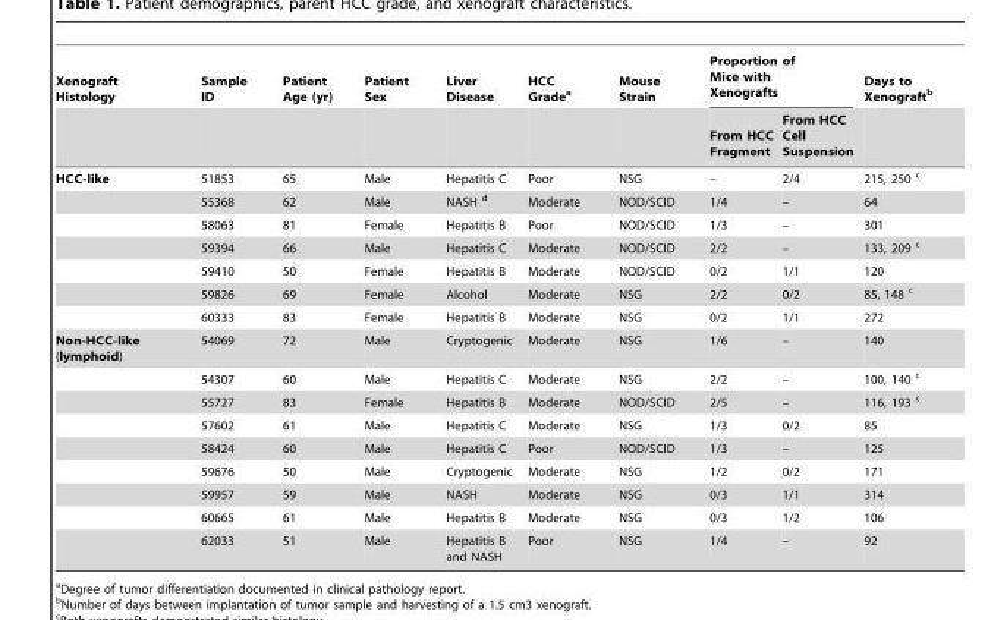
<table><thead><tr><td rowspan="2">Xenograft Histology</td><td rowspan="2">Sample ID</td><td rowspan="2">Patient Age (yr)</td><td rowspan="2">Patient Sex</td><td rowspan="2">Liver Disease</td><td rowspan="2">HCC Grade<sup>a</sup></td><td rowspan="2">Mouse Strain</td><td colspan="2">Proportion of Mice with Xenografts</td><td rowspan="2">Days to Xenograft<sup>b</sup></td></tr><tr><td>From HCC Fragment</td><td>From HCC Cell Suspension</td></tr></thead><tbody><tr><td rowspan="7">HCC-like</td><td>51853</td><td>65</td><td>Male</td><td>Hepatitis C</td><td>Poor</td><td>NSG</td><td>–</td><td>2/4</td><td>215, 250 c</td></tr><tr><td>55368</td><td>62</td><td>Male</td><td>NASH d</td><td>Moderate</td><td>NOD/SCID</td><td>1/4</td><td>–</td><td>64</td></tr><tr><td>58063</td><td>81</td><td>Female</td><td>Hepatitis B</td><td>Poor</td><td>NOD/SCID</td><td>1/3</td><td>–</td><td>301</td></tr><tr><td>59394</td><td>66</td><td>Male</td><td>Hepatitis C</td><td>Moderate</td><td>NOD/SCID</td><td>2/2</td><td>–</td><td>133, 209 c</td></tr><tr><td>59410</td><td>50</td><td>Female</td><td>Hepatitis B</td><td>Moderate</td><td>NOD/SCID</td><td>0/2</td><td>1/1</td><td>120</td></tr><tr><td>59826</td><td>69</td><td>Female</td><td>Alcohol</td><td>Moderate</td><td>NSG</td><td>2/2</td><td>0/2</td><td>85, 148 c</td></tr><tr><td>60333</td><td>83</td><td>Female</td><td>Hepatitis B</td><td>Moderate</td><td>NSG</td><td>0/2</td><td>1/1</td><td>272</td></tr><tr><td rowspan="9">Non-HCC-like (lymphoid)</td><td>54069</td><td>72</td><td>Male</td><td>Cryptogenic</td><td>Moderate</td><td>NSG</td><td>1/6</td><td>–</td><td>140</td></tr><tr><td>54307</td><td>60</td><td>Male</td><td>Hepatitis C</td><td>Moderate</td><td>NSG</td><td>2/2</td><td>–</td><td>100, 140 c</td></tr><tr><td>55727</td><td>83</td><td>Female</td><td>Hepatitis B</td><td>Moderate</td><td>NOD/SCID</td><td>2/5</td><td>–</td><td>116, 193 c</td></tr><tr><td>57602</td><td>61</td><td>Male</td><td>Hepatitis C</td><td>Moderate</td><td>NSG</td><td>1/3</td><td>0/2</td><td>85</td></tr><tr><td>58424</td><td>60</td><td>Male</td><td>Hepatitis C</td><td>Poor</td><td>NOD/SCID</td><td>1/3</td><td>–</td><td>125</td></tr><tr><td>59676</td><td>50</td><td>Male</td><td>Cryptogenic</td><td>Moderate</td><td>NSG</td><td>1/2</td><td>0/2</td><td>171</td></tr><tr><td>59957</td><td>59</td><td>Male</td><td>NASH</td><td>Moderate</td><td>NSG</td><td>0/3</td><td>1/1</td><td>314</td></tr><tr><td>60665</td><td>61</td><td>Male</td><td>Hepatitis B</td><td>Moderate</td><td>NSG</td><td>0/3</td><td>1/2</td><td>106</td></tr><tr><td>62033</td><td>51</td><td>Male</td><td>Hepatitis B and NASH</td><td>Poor</td><td>NSG</td><td>1/4</td><td>–</td><td>92</td></tr></tbody></table>